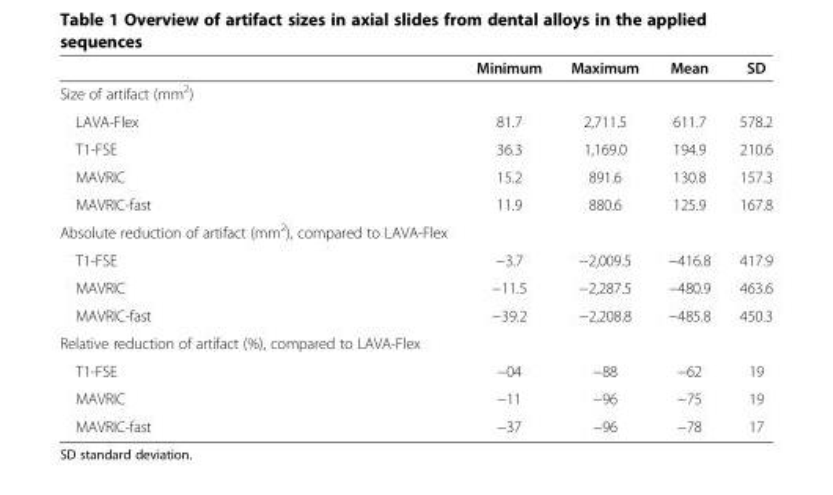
<table><thead><tr><td></td><td>Minimum</td><td>Maximum</td><td>Mean</td><td>SD</td></tr></thead><tbody><tr><td colspan="5">Size of artifact (mm<sup>2</sup>)</td></tr><tr><td>LAVA-Flex</td><td>81.7</td><td>2,711.5</td><td>611.7</td><td>578.2</td></tr><tr><td>T1-FSE</td><td>36.3</td><td>1,169.0</td><td>194.9</td><td>210.6</td></tr><tr><td>MAVRIC</td><td>15.2</td><td>891.6</td><td>130.8</td><td>157.3</td></tr><tr><td>MAVRIC-fast</td><td>11.9</td><td>880.6</td><td>125.9</td><td>167.8</td></tr><tr><td colspan="5">Absolute reduction of artifact (mm<sup>2</sup>), compared to LAVA-Flex</td></tr><tr><td>T1-FSE</td><td>−3.7</td><td>−2,009.5</td><td>−416.8</td><td>417.9</td></tr><tr><td>MAVRIC</td><td>−11.5</td><td>−2,287.5</td><td>−480.9</td><td>463.6</td></tr><tr><td>MAVRIC-fast</td><td>−39.2</td><td>−2,208.8</td><td>−485.8</td><td>450.3</td></tr><tr><td colspan="5">Relative reduction of artifact (%), compared to LAVA-Flex</td></tr><tr><td>T1-FSE</td><td>−04</td><td>−88</td><td>−62</td><td>19</td></tr><tr><td>MAVRIC</td><td>−11</td><td>−96</td><td>−75</td><td>19</td></tr><tr><td>MAVRIC-fast</td><td>−37</td><td>−96</td><td>−78</td><td>17</td></tr></tbody></table>